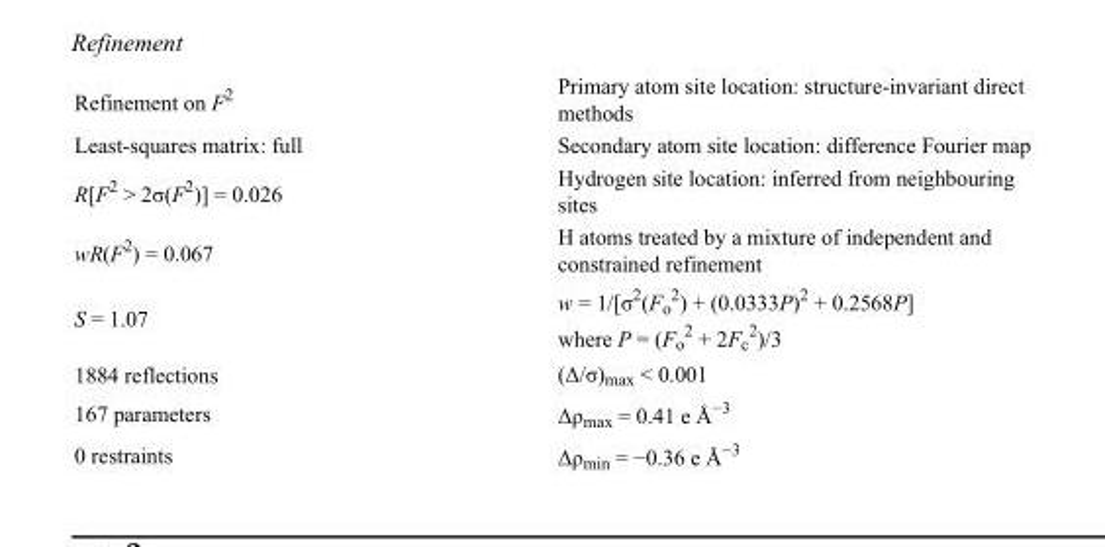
<table><tbody><tr><td>Refinement on F<sup>2</sup></td><td>Primary atom site location: structure-invariant direct methods</td></tr><tr><td>Least-squares matrix: full</td><td>Secondary atom site location: difference Fourier map</td></tr><tr><td>R[F<sup>2</sup> &gt; 2σ(F<sup>2</sup>)] = 0.026</td><td>Hydrogen site location: inferred from neighbouring sites</td></tr><tr><td>wR(F<sup>2</sup>) = 0.067</td><td>H atoms treated by a mixture of independent and constrained refinement</td></tr><tr><td>S = 1.07</td><td>w = 1/[σ<sup>2</sup>(F<sub>o</sub> <sup>2</sup>) + (0.0333P)<sup>2</sup> + 0.2568P] where P = (F<sub>o</sub> <sup>2</sup> + 2F<sub>c</sub> <sup>2</sup>)/3</td></tr><tr><td>1884 reflections</td><td>(Δ/σ)<sub>max</sub> &lt; 0.001</td></tr><tr><td>167 parameters</td><td>Δρ<sub>max</sub> = 0.41 e Å<sup>−3</sup></td></tr><tr><td>0 restraints</td><td>Δρ<sub>min</sub> = −0.36 e Å<sup>−3</sup></td></tr></tbody></table>